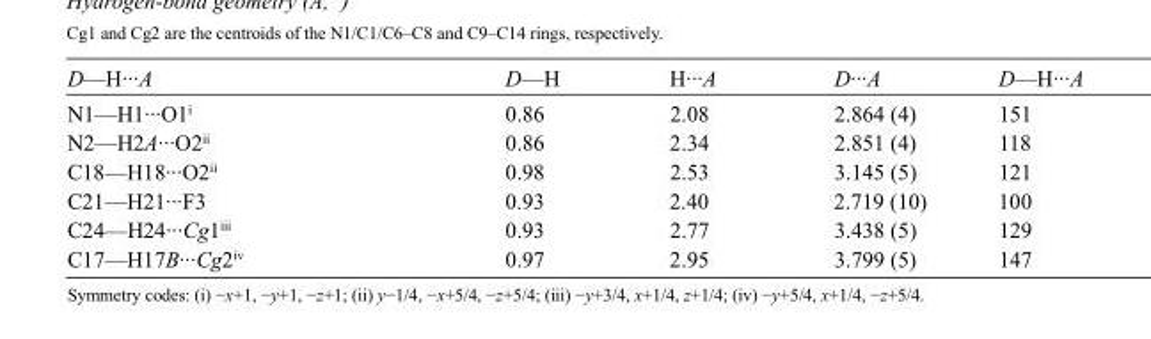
<table><tbody><tr><td>D—H···A</td><td>D—H</td><td>H···A</td><td>D···A</td><td>D—H···A</td></tr><tr><td>N1—H1···O1<sup>i</sup></td><td>0.86</td><td>2.08</td><td>2.864 (4)</td><td>151</td></tr><tr><td>N2—H2A···O2<sup>ii</sup></td><td>0.86</td><td>2.34</td><td>2.851 (4)</td><td>118</td></tr><tr><td>C18—H18···O2<sup>ii</sup></td><td>0.98</td><td>2.53</td><td>3.145 (5)</td><td>121</td></tr><tr><td>C21—H21···F3</td><td>0.93</td><td>2.40</td><td>2.719 (10)</td><td>100</td></tr><tr><td>C24—H24···Cg1<sup>iii</sup></td><td>0.93</td><td>2.77</td><td>3.438 (5)</td><td>129</td></tr><tr><td>C17—H17B···Cg2<sup>iv</sup></td><td>0.97</td><td>2.95</td><td>3.799 (5)</td><td>147</td></tr></tbody></table>